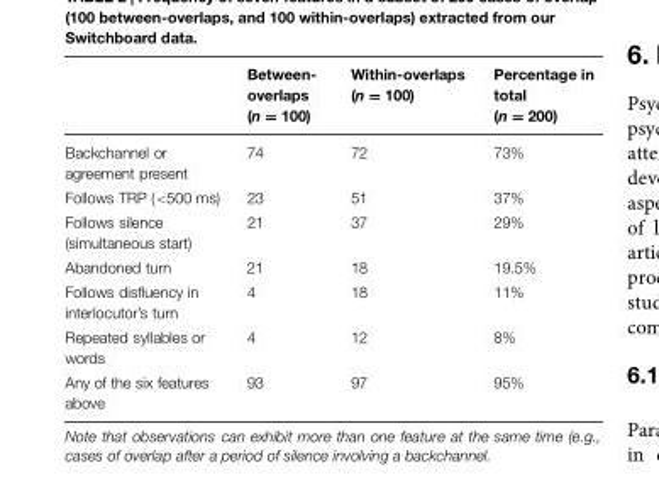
<table><thead><tr><td></td><td>Between- overlaps (n = 100)</td><td>Within-overlaps (n = 100)</td><td>Percentage in total (n = 200)</td></tr></thead><tbody><tr><td>Backchannel or agreement present</td><td>74</td><td>72</td><td>73%</td></tr><tr><td>Follows TRP (&lt;500 ms)</td><td>23</td><td>51</td><td>37%</td></tr><tr><td>Follows silence (simultaneous start)</td><td>21</td><td>37</td><td>29%</td></tr><tr><td>Abandoned turn</td><td>21</td><td>18</td><td>19.5%</td></tr><tr><td>Follows disfluency in interlocutor’s turn</td><td>4</td><td>18</td><td>11%</td></tr><tr><td>Repeated syllables or words</td><td>4</td><td>12</td><td>8%</td></tr><tr><td>Any of the six features above</td><td>93</td><td>97</td><td>95%</td></tr></tbody></table>